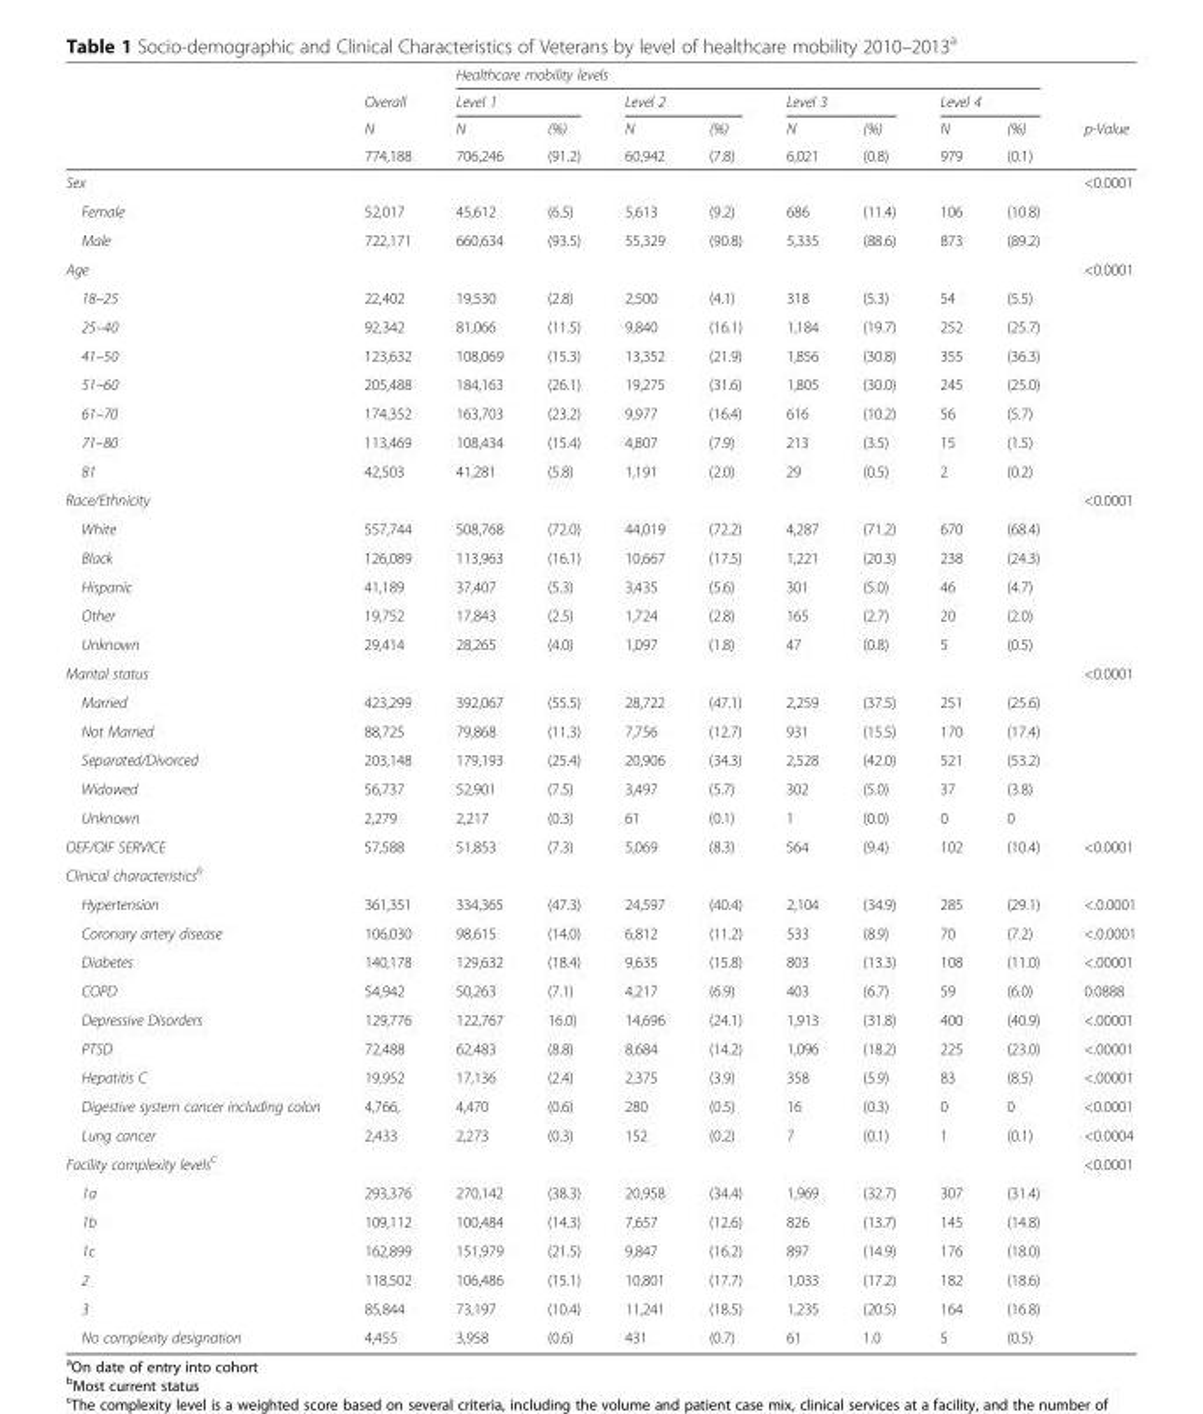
<table><thead><tr><td rowspan="4"></td><td rowspan="4">Overall N 774,188</td><td colspan="8">Healthcare mobility levels</td><td rowspan="4">p-Value</td></tr><tr><td colspan="2">Level 1</td><td colspan="2">Level 2</td><td colspan="2">Level 3</td><td colspan="2">Level 4</td></tr><tr><td rowspan="2">N 706,246</td><td rowspan="2">(%) (91.2)</td><td rowspan="2">N 60,942</td><td rowspan="2">(%) (7.8)</td><td rowspan="2">N 6,021</td><td rowspan="2">(%) (0.8)</td><td rowspan="2">N 979</td><td rowspan="2">(%) (0.1)</td></tr><tr></tr></thead><tbody><tr><td colspan="10">Sex</td><td>&lt;0.0001</td></tr><tr><td>Female</td><td>52,017</td><td>45,612</td><td>(6.5)</td><td>5,613</td><td>(9.2)</td><td>686</td><td>(11.4)</td><td>106</td><td>(10.8)</td><td></td></tr><tr><td>Male</td><td>722,171</td><td>660,634</td><td>(93.5)</td><td>55,329</td><td>(90.8)</td><td>5,335</td><td>(88.6)</td><td>873</td><td>(89.2)</td><td></td></tr><tr><td colspan="10">Age</td><td>&lt;0.0001</td></tr><tr><td>18–25</td><td>22,402</td><td>19,530</td><td>(2.8)</td><td>2,500</td><td>(4.1)</td><td>318</td><td>(5.3)</td><td>54</td><td>(5.5)</td><td rowspan="7"></td></tr><tr><td>25–40</td><td>92,342</td><td>81,066</td><td>(11.5)</td><td>9,840</td><td>(16.1)</td><td>1,184</td><td>(19.7)</td><td>252</td><td>(25.7)</td></tr><tr><td>41–50</td><td>123,632</td><td>108,069</td><td>(15.3)</td><td>13,352</td><td>(21.9)</td><td>1,856</td><td>(30.8)</td><td>355</td><td>(36.3)</td></tr><tr><td>51–60</td><td>205,488</td><td>184,163</td><td>(26.1)</td><td>19,275</td><td>(31.6)</td><td>1,805</td><td>(30.0)</td><td>245</td><td>(25.0)</td></tr><tr><td>61–70</td><td>174,352</td><td>163,703</td><td>(23.2)</td><td>9,977</td><td>(16.4)</td><td>616</td><td>(10.2)</td><td>56</td><td>(5.7)</td></tr><tr><td>71–80</td><td>113,469</td><td>108,434</td><td>(15.4)</td><td>4,807</td><td>(7.9)</td><td>213</td><td>(3.5)</td><td>15</td><td>(1.5)</td></tr><tr><td>81</td><td>42,503</td><td>41,281</td><td>(5.8)</td><td>1,191</td><td>(2.0)</td><td>29</td><td>(0.5)</td><td>2</td><td>(0.2)</td></tr><tr><td colspan="10">Race/Ethnicity</td><td>&lt;0.0001</td></tr><tr><td>White</td><td>557,744</td><td>508,768</td><td>(72.0)</td><td>44,019</td><td>(72.2)</td><td>4,287</td><td>(71.2)</td><td>670</td><td>(68.4)</td><td rowspan="5"></td></tr><tr><td>Black</td><td>126,089</td><td>113,963</td><td>(16.1)</td><td>10,667</td><td>(17.5)</td><td>1,221</td><td>(20.3)</td><td>238</td><td>(24.3)</td></tr><tr><td>Hispanic</td><td>41,189</td><td>37,407</td><td>(5.3)</td><td>3,435</td><td>(5.6)</td><td>301</td><td>(5.0)</td><td>46</td><td>(4.7)</td></tr><tr><td>Other</td><td>19,752</td><td>17,843</td><td>(2.5)</td><td>1,724</td><td>(2.8)</td><td>165</td><td>(2.7)</td><td>20</td><td>(2.0)</td></tr><tr><td>Unknown</td><td>29,414</td><td>28,265</td><td>(4.0)</td><td>1,097</td><td>(1.8)</td><td>47</td><td>(0.8)</td><td>5</td><td>(0.5)</td></tr><tr><td colspan="10">Marital status</td><td>&lt;0.0001</td></tr><tr><td>Married</td><td>423,299</td><td>392,067</td><td>(55.5)</td><td>28,722</td><td>(47.1)</td><td>2,259</td><td>(37.5)</td><td>251</td><td>(25.6)</td><td rowspan="5"></td></tr><tr><td>Not Married</td><td>88,725</td><td>79,868</td><td>(11.3)</td><td>7,756</td><td>(12.7)</td><td>931</td><td>(15.5)</td><td>170</td><td>(17.4)</td></tr><tr><td>Separated/Divorced</td><td>203,148</td><td>179,193</td><td>(25.4)</td><td>20,906</td><td>(34.3)</td><td>2,528</td><td>(42.0)</td><td>521</td><td>(53.2)</td></tr><tr><td>Widowed</td><td>56,737</td><td>52,901</td><td>(7.5)</td><td>3,497</td><td>(5.7)</td><td>302</td><td>(5.0)</td><td>37</td><td>(3.8)</td></tr><tr><td>Unknown</td><td>2,279</td><td>2,217</td><td>(0.3)</td><td>61</td><td>(0.1)</td><td>1</td><td>(0.0)</td><td>0</td><td>0</td></tr><tr><td>OEF/OIF SERVICE</td><td>57,588</td><td>51,853</td><td>(7.3)</td><td>5,069</td><td>(8.3)</td><td>564</td><td>(9.4)</td><td>102</td><td>(10.4)</td><td>&lt;0.0001</td></tr><tr><td colspan="11">Clinical characteristics<sup>b</sup></td></tr><tr><td>Hypertension</td><td>361,351</td><td>334,365</td><td>(47.3)</td><td>24,597</td><td>(40.4)</td><td>2,104</td><td>(34.9)</td><td>285</td><td>(29.1)</td><td>&lt;.0.0001</td></tr><tr><td>Coronary artery disease</td><td>106,030</td><td>98,615</td><td>(14.0)</td><td>6,812</td><td>(11.2)</td><td>533</td><td>(8.9)</td><td>70</td><td>(7.2)</td><td>&lt;.0.0001</td></tr><tr><td>Diabetes</td><td>140,178</td><td>129,632</td><td>(18.4)</td><td>9,635</td><td>(15.8)</td><td>803</td><td>(13.3)</td><td>108</td><td>(11.0)</td><td>&lt;.00001</td></tr><tr><td>COPD</td><td>54,942</td><td>50,263</td><td>(7.1)</td><td>4,217</td><td>(6.9)</td><td>403</td><td>(6.7)</td><td>59</td><td>(6.0)</td><td>0.0888</td></tr><tr><td>Depressive Disorders</td><td>129,776</td><td>122,767</td><td>16.0)</td><td>14,696</td><td>(24.1)</td><td>1,913</td><td>(31.8)</td><td>400</td><td>(40.9)</td><td>&lt;.00001</td></tr><tr><td>PTSD</td><td>72,488</td><td>62,483</td><td>(8.8)</td><td>8,684</td><td>(14.2)</td><td>1,096</td><td>(18.2)</td><td>225</td><td>(23.0)</td><td>&lt;.00001</td></tr><tr><td>Hepatitis C</td><td>19,952</td><td>17,136</td><td>(2.4)</td><td>2,375</td><td>(3.9)</td><td>358</td><td>(5.9)</td><td>83</td><td>(8.5)</td><td>&lt;.00001</td></tr><tr><td>Digestive system cancer including colon</td><td>4,766,</td><td>4,470</td><td>(0.6)</td><td>280</td><td>(0.5)</td><td>16</td><td>(0.3)</td><td>0</td><td>0</td><td>&lt;0.0001</td></tr><tr><td>Lung cancer</td><td>2,433</td><td>2,273</td><td>(0.3)</td><td>152</td><td>(0.2)</td><td>7</td><td>(0.1)</td><td>1</td><td>(0.1)</td><td>&lt;0.0004</td></tr><tr><td colspan="10">Facility complexity levels<sup>C</sup></td><td>&lt;0.0001</td></tr><tr><td>1a</td><td>293,376</td><td>270,142</td><td>(38.3)</td><td>20,958</td><td>(34.4)</td><td>1,969</td><td>(32.7)</td><td>307</td><td>(31.4)</td><td rowspan="6"></td></tr><tr><td>1b</td><td>109,112</td><td>100,484</td><td>(14.3)</td><td>7,657</td><td>(12.6)</td><td>826</td><td>(13.7)</td><td>145</td><td>(14.8)</td></tr><tr><td>1c</td><td>162,899</td><td>151,979</td><td>(21.5)</td><td>9,847</td><td>(16.2)</td><td>897</td><td>(14.9)</td><td>176</td><td>(18.0)</td></tr><tr><td>2</td><td>118,502</td><td>106,486</td><td>(15.1)</td><td>10,801</td><td>(17.7)</td><td>1,033</td><td>(17.2)</td><td>182</td><td>(18.6)</td></tr><tr><td>3</td><td>85,844</td><td>73,197</td><td>(10.4)</td><td>11,241</td><td>(18.5)</td><td>1,235</td><td>(20.5)</td><td>164</td><td>(16.8)</td></tr><tr><td>No complexity designation</td><td>4,455</td><td>3,958</td><td>(0.6)</td><td>431</td><td>(0.7)</td><td>61</td><td>1.0</td><td>5</td><td>(0.5)</td></tr></tbody></table>